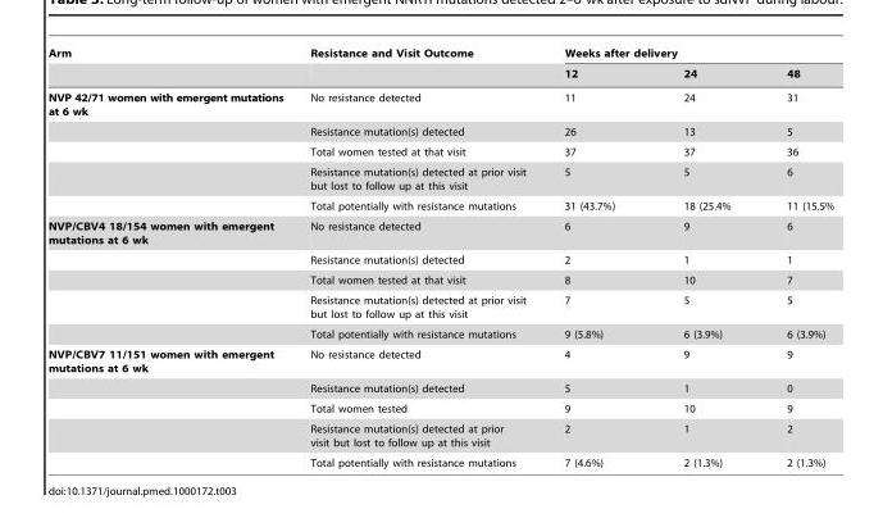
<table><thead><tr><td rowspan="2">Arm</td><td rowspan="2">Resistance and Visit Outcome</td><td colspan="3">Weeks after delivery</td></tr><tr><td>12</td><td>24</td><td>48</td></tr></thead><tbody><tr><td rowspan="5">NVP 42/71 women with emergent mutations at 6 wk</td><td>No resistance detected</td><td>11</td><td>24</td><td>31</td></tr><tr><td>Resistance mutation(s) detected</td><td>26</td><td>13</td><td>5</td></tr><tr><td>Total women tested at that visit</td><td>37</td><td>37</td><td>36</td></tr><tr><td>Resistance mutation(s) detected at prior visit but lost to follow up at this visit</td><td>5</td><td>5</td><td>6</td></tr><tr><td>Total potentially with resistance mutations</td><td>31 (43.7%)</td><td>18 (25.4%</td><td>11 (15.5%</td></tr><tr><td rowspan="5">NVP/CBV4 18/154 women with emergent mutations at 6 wk</td><td>No resistance detected</td><td>6</td><td>9</td><td>6</td></tr><tr><td>Resistance mutation(s) detected</td><td>2</td><td>1</td><td>1</td></tr><tr><td>Total women tested at that visit</td><td>8</td><td>10</td><td>7</td></tr><tr><td>Resistance mutation(s) detected at prior visit but lost to follow up at this visit</td><td>7</td><td>5</td><td>5</td></tr><tr><td>Total potentially with resistance mutations</td><td>9 (5.8%)</td><td>6 (3.9%)</td><td>6 (3.9%)</td></tr><tr><td rowspan="5">NVP/CBV7 11/151 women with emergent mutations at 6 wk</td><td>No resistance detected</td><td>4</td><td>9</td><td>9</td></tr><tr><td>Resistance mutation(s) detected</td><td>5</td><td>1</td><td>0</td></tr><tr><td>Total women tested</td><td>9</td><td>10</td><td>9</td></tr><tr><td>Resistance mutation(s) detected at prior visit but lost to follow up at this visit</td><td>2</td><td>1</td><td>2</td></tr><tr><td>Total potentially with resistance mutations</td><td>7 (4.6%)</td><td>2 (1.3%)</td><td>2 (1.3%)</td></tr></tbody></table>